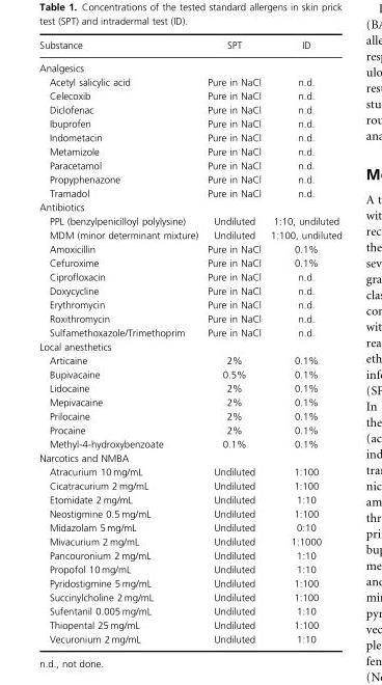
<table><thead><tr><td>Substance</td><td>SPT</td><td>ID</td></tr></thead><tbody><tr><td colspan="3">Analgesics</td></tr><tr><td>Acetyl salicylic acid</td><td>Pure in NaCl</td><td>n.d.</td></tr><tr><td>Celecoxib</td><td>Pure in NaCl</td><td>n.d.</td></tr><tr><td>Diclofenac</td><td>Pure in NaCl</td><td>n.d.</td></tr><tr><td>Ibuprofen</td><td>Pure in NaCl</td><td>n.d.</td></tr><tr><td>Indometacin</td><td>Pure in NaCl</td><td>n.d.</td></tr><tr><td>Metamizole</td><td>Pure in NaCl</td><td>n.d.</td></tr><tr><td>Paracetamol</td><td>Pure in NaCl</td><td>n.d.</td></tr><tr><td>Propyphenazone</td><td>Pure in NaCl</td><td>n.d.</td></tr><tr><td>Tramadol</td><td>Pure in NaCl</td><td>n.d.</td></tr><tr><td colspan="3">Antibiotics</td></tr><tr><td>PPL (benzylpenicilloyl polylysine)</td><td>Undiluted</td><td>1:10, undiluted</td></tr><tr><td>MDM (minor determinant mixture)</td><td>Undiluted</td><td>1:100, undiluted</td></tr><tr><td>Amoxicillin</td><td>Pure in NaCl</td><td>0.1%</td></tr><tr><td>Cefuroxime</td><td>Pure in NaCl</td><td>0.1%</td></tr><tr><td>Ciprofloxacin</td><td>Pure in NaCl</td><td>n.d.</td></tr><tr><td>Doxycycline</td><td>Pure in NaCl</td><td>n.d.</td></tr><tr><td>Erythromycin</td><td>Pure in NaCl</td><td>n.d.</td></tr><tr><td>Roxithromycin</td><td>Pure in NaCl</td><td>n.d.</td></tr><tr><td>Sulfamethoxazole/Trimethoprim</td><td>Pure in NaCl</td><td>n.d.</td></tr><tr><td colspan="3">Local anesthetics</td></tr><tr><td>Articaine</td><td>2%</td><td>0.1%</td></tr><tr><td>Bupivacaine</td><td>0.5%</td><td>0.1%</td></tr><tr><td>Lidocaine</td><td>2%</td><td>0.1%</td></tr><tr><td>Mepivacaine</td><td>2%</td><td>0.1%</td></tr><tr><td>Prilocaine</td><td>2%</td><td>0.1%</td></tr><tr><td>Procaine</td><td>2%</td><td>0.1%</td></tr><tr><td>Methyl-4-hydroxybenzoate</td><td>0.1%</td><td>0.1%</td></tr><tr><td colspan="3">Narcotics and NMBA</td></tr><tr><td>Atracurium 10 mg/mL</td><td>Undiluted</td><td>1:100</td></tr><tr><td>Cicatracurium 2 mg/mL</td><td>Undiluted</td><td>1:100</td></tr><tr><td>Etomidate 2 mg/mL</td><td>Undiluted</td><td>1:10</td></tr><tr><td>Neostigmine 0.5 mg/mL</td><td>Undiluted</td><td>1:100</td></tr><tr><td>Midazolam 5 mg/mL</td><td>Undiluted</td><td>0:10</td></tr><tr><td>Mivacurium 2 mg/mL</td><td>Undiluted</td><td>1:1000</td></tr><tr><td>Pancouronium 2 mg/mL</td><td>Undiluted</td><td>1:10</td></tr><tr><td>Propofol 10 mg/mL</td><td>Undiluted</td><td>1:10</td></tr><tr><td>Pyridostigmine 5 mg/mL</td><td>Undiluted</td><td>1:100</td></tr><tr><td>Succinylcholine 2 mg/mL</td><td>Undiluted</td><td>1:100</td></tr><tr><td>Sufentanil 0.005 mg/mL</td><td>Undiluted</td><td>1:10</td></tr><tr><td>Thiopental 25 mg/mL</td><td>Undiluted</td><td>1:100</td></tr><tr><td>Vecuronium 2 mg/mL</td><td>Undiluted</td><td>1:10</td></tr></tbody></table>